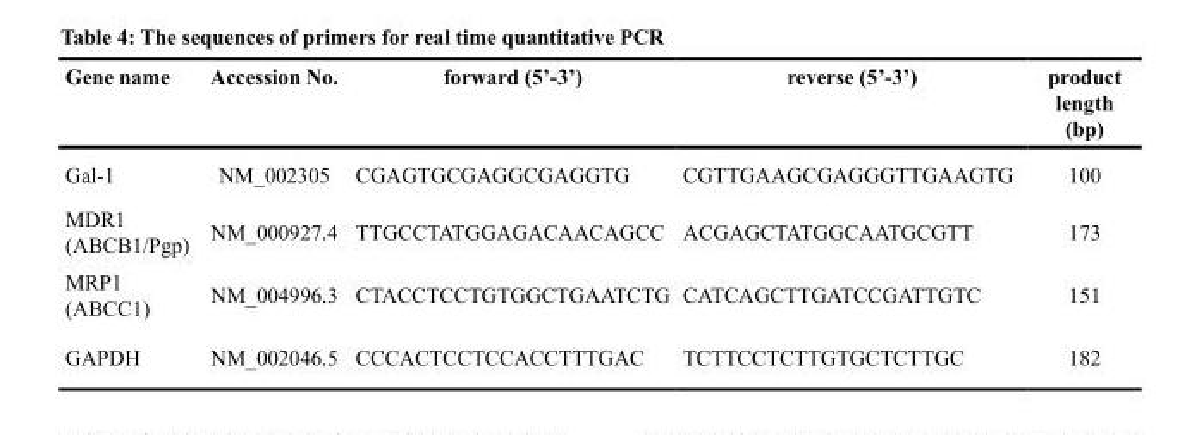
<table><thead><tr><td>Gene name</td><td>Accession No.</td><td>forward (5’-3’)</td><td>reverse (5’-3’)</td><td>product length (bp)</td></tr></thead><tbody><tr><td>Gal-1</td><td>NM_002305</td><td>CGAGTGCGAGGCGAGGTG</td><td>CGTTGAAGCGAGGGTTGAAGTG</td><td>100</td></tr><tr><td>MDR1 (ABCB1/Pgp)</td><td>NM_000927.4</td><td>TTGCCTATGGAGACAACAGCC</td><td>ACGAGCTATGGCAATGCGTT</td><td>173</td></tr><tr><td>MRP1 (ABCC1)</td><td>NM_004996.3</td><td>CTACCTCCTGTGGCTGAATCTG</td><td>CATCAGCTTGATCCGATTGTC</td><td>151</td></tr><tr><td>GAPDH</td><td>NM_002046.5</td><td>CCCACTCCTCCACCTTTGAC</td><td>TCTTCCTCTTGTGCTCTTGC</td><td>182</td></tr></tbody></table>